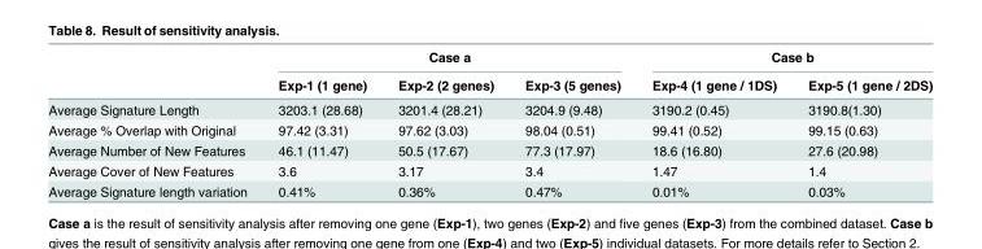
<table><thead><tr><td rowspan="2"></td><td colspan="3">Case a</td><td colspan="2">Case b</td></tr><tr><td>Exp-1 (1 gene)</td><td>Exp-2 (2 genes)</td><td>Exp-3 (5 genes)</td><td>Exp-4 (1 gene / 1DS)</td><td>Exp-5 (1 gene / 2DS)</td></tr></thead><tbody><tr><td>Average Signature Length</td><td>3203.1 (28.68)</td><td>3201.4 (28.21)</td><td>3204.9 (9.48)</td><td>3190.2 (0.45)</td><td>3190.8(1.30)</td></tr><tr><td>Average % Overlap with Original</td><td>97.42 (3.31)</td><td>97.62 (3.03)</td><td>98.04 (0.51)</td><td>99.41 (0.52)</td><td>99.15 (0.63)</td></tr><tr><td>Average Number of New Features</td><td>46.1 (11.47)</td><td>50.5 (17.67)</td><td>77.3 (17.97)</td><td>18.6 (16.80)</td><td>27.6 (20.98)</td></tr><tr><td>Average Cover of New Features</td><td>3.6</td><td>3.17</td><td>3.4</td><td>1.47</td><td>1.4</td></tr><tr><td>Average Signature length variation</td><td>0.41%</td><td>0.36%</td><td>0.47%</td><td>0.01%</td><td>0.03%</td></tr></tbody></table>